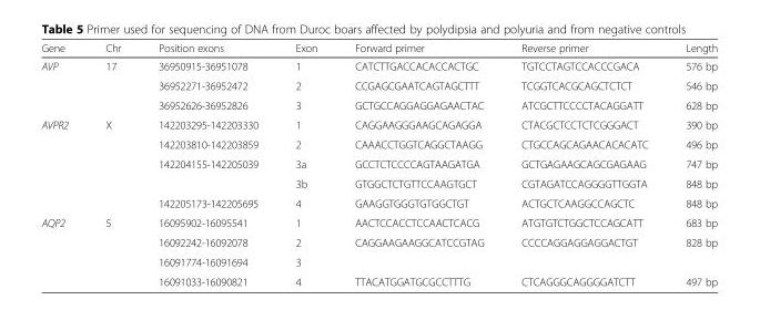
<table><thead><tr><td>Gene</td><td>Chr</td><td>Position exons</td><td>Exon</td><td>Forward primer</td><td>Reverse primer</td><td>Length</td></tr></thead><tbody><tr><td rowspan="3">AVP</td><td rowspan="3">17</td><td>36950915-36951078</td><td>1</td><td>CATCTTGACCACACCACTGC</td><td>TGTCCTAGTCCACCCGACA</td><td>576 bp</td></tr><tr><td>36952271-36952472</td><td>2</td><td>CCGAGCGAATCAGTAGCTTT</td><td>TCGGTCACGCAGCTCTCT</td><td>546 bp</td></tr><tr><td>36952626-36952826</td><td>3</td><td>GCTGCCAGGAGGAGAACTAC</td><td>ATCGCTTCCCCTACAGGATT</td><td>628 bp</td></tr><tr><td rowspan="5">AVPR2</td><td rowspan="5">X</td><td>142203295-142203330</td><td>1</td><td>CAGGAAGGGAAGCAGAGGA</td><td>CTACGCTCCTCTCGGGACT</td><td>390 bp</td></tr><tr><td>142203810-142203859</td><td>2</td><td>CAAACCTGGTCAGGCTAAGG</td><td>CTGCCAGCAGAACACACATC</td><td>496 bp</td></tr><tr><td rowspan="2">142204155-142205039</td><td>3a</td><td>GCCTCTCCCCAGTAAGATGA</td><td>GCTGAGAAGCAGCGAGAAG</td><td>747 bp</td></tr><tr><td>3b</td><td>GTGGCTCTGTTCCAAGTGCT</td><td>CGTAGATCCAGGGGTTGGTA</td><td>848 bp</td></tr><tr><td>142205173-142205695</td><td>4</td><td>GAAGGTGGGTGTGGCTGT</td><td>ACTGCTCAAGGCCAGCTC</td><td>848 bp</td></tr><tr><td rowspan="4">AQP2</td><td rowspan="4">5</td><td>16095902-16095541</td><td>1</td><td>AACTCCACCTCCAACTCACG</td><td>ATGTGTCTGGCTCCAGCATT</td><td>683 bp</td></tr><tr><td>16092242-16092078</td><td>2</td><td rowspan="2">CAGGAAGAAGGCATCCGTAG</td><td rowspan="2">CCCCAGGAGGAGGACTGT</td><td rowspan="2">828 bp</td></tr><tr><td>16091774-16091694</td><td>3</td></tr><tr><td>16091033-16090821</td><td>4</td><td>TTACATGGATGCGCCTTTG</td><td>CTCAGGGCAGGGGATCTT</td><td>497 bp</td></tr></tbody></table>